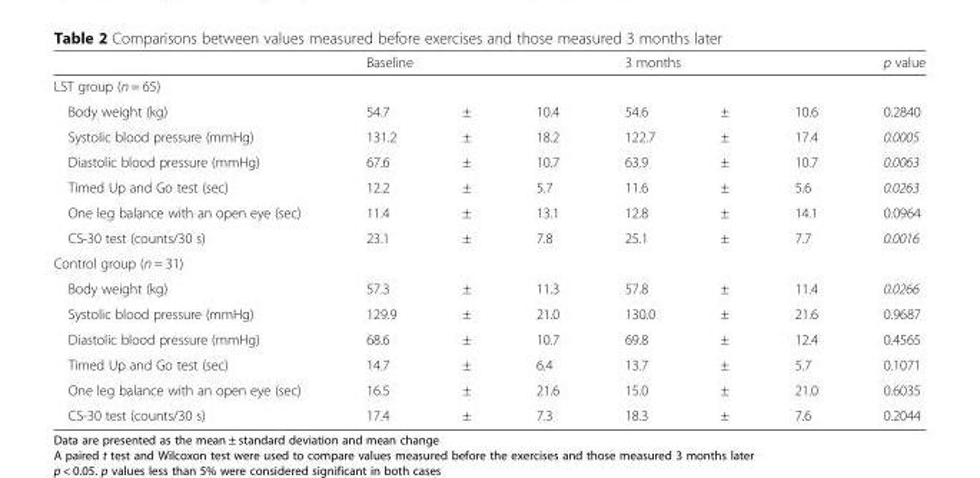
<table><thead><tr><td></td><td colspan="3">Baseline</td><td colspan="3">3 months</td><td>p value</td></tr><tr><td colspan="8">LST group (n = 65)</td></tr><tr><td>Body weight (kg)</td><td>54.7</td><td>±</td><td>10.4</td><td>54.6</td><td>±</td><td>10.6</td><td>0.2840</td></tr></thead><tbody><tr><td>Systolic blood pressure (mmHg)</td><td>131.2</td><td>±</td><td>18.2</td><td>122.7</td><td>±</td><td>17.4</td><td>0.0005</td></tr><tr><td>Diastolic blood pressure (mmHg)</td><td>67.6</td><td>±</td><td>10.7</td><td>63.9</td><td>±</td><td>10.7</td><td>0.0063</td></tr><tr><td>Timed Up and Go test (sec)</td><td>12.2</td><td>±</td><td>5.7</td><td>11.6</td><td>±</td><td>5.6</td><td>0.0263</td></tr><tr><td>One leg balance with an open eye (sec)</td><td>11.4</td><td>±</td><td>13.1</td><td>12.8</td><td>±</td><td>14.1</td><td>0.0964</td></tr><tr><td>CS-30 test (counts/30 s)</td><td>23.1</td><td>±</td><td>7.8</td><td>25.1</td><td>±</td><td>7.7</td><td>0.0016</td></tr><tr><td colspan="8">Control group (n = 31)</td></tr><tr><td>Body weight (kg)</td><td>57.3</td><td>±</td><td>11.3</td><td>57.8</td><td>±</td><td>11.4</td><td>0.0266</td></tr><tr><td>Systolic blood pressure (mmHg)</td><td>129.9</td><td>±</td><td>21.0</td><td>130.0</td><td>±</td><td>21.6</td><td>0.9687</td></tr><tr><td>Diastolic blood pressure (mmHg)</td><td>68.6</td><td>±</td><td>10.7</td><td>69.8</td><td>±</td><td>12.4</td><td>0.4565</td></tr><tr><td>Timed Up and Go test (sec)</td><td>14.7</td><td>±</td><td>6.4</td><td>13.7</td><td>±</td><td>5.7</td><td>0.1071</td></tr><tr><td>One leg balance with an open eye (sec)</td><td>16.5</td><td>±</td><td>21.6</td><td>15.0</td><td>±</td><td>21.0</td><td>0.6035</td></tr><tr><td>CS-30 test (counts/30 s)</td><td>17.4</td><td>±</td><td>7.3</td><td>18.3</td><td>±</td><td>7.6</td><td>0.2044</td></tr></tbody></table>